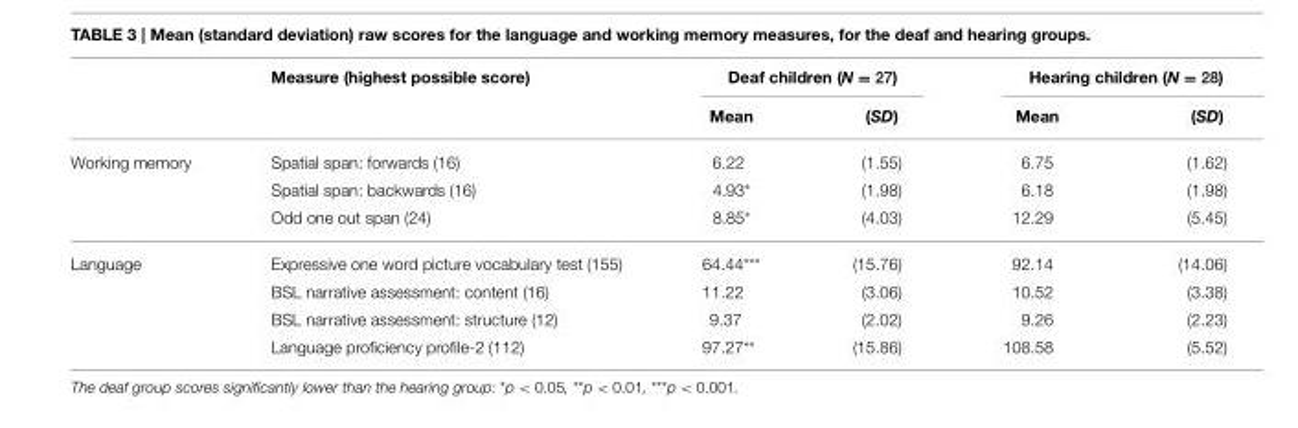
<table><thead><tr><td rowspan="2"></td><td rowspan="2">Measure (highest possible score)</td><td colspan="2">Deaf children (N = 27)</td><td colspan="2">Hearing children (N = 28)</td></tr><tr><td>Mean</td><td>(SD)</td><td>Mean</td><td>(SD)</td></tr></thead><tbody><tr><td rowspan="3">Working memory</td><td>Spatial span: forwards (16)</td><td>6.22</td><td>(1.55)</td><td>6.75</td><td>(1.62)</td></tr><tr><td>Spatial span: backwards (16)</td><td>4.93*</td><td>(1.98)</td><td>6.18</td><td>(1.98)</td></tr><tr><td>Odd one out span (24)</td><td>8.85*</td><td>(4.03)</td><td>12.29</td><td>(5.45)</td></tr><tr><td rowspan="4">Language</td><td>Expressive one word picture vocabulary test (155)</td><td>64.44***</td><td>(15.76)</td><td>92.14</td><td>(14.06)</td></tr><tr><td>BSL narrative assessment: content (16)</td><td>11.22</td><td>(3.06)</td><td>10.52</td><td>(3.38)</td></tr><tr><td>BSL narrative assessment: structure (12)</td><td>9.37</td><td>(2.02)</td><td>9.26</td><td>(2.23)</td></tr><tr><td>Language proficiency profile-2 (112)</td><td>97.27**</td><td>(15.86)</td><td>108.58</td><td>(5.52)</td></tr></tbody></table>